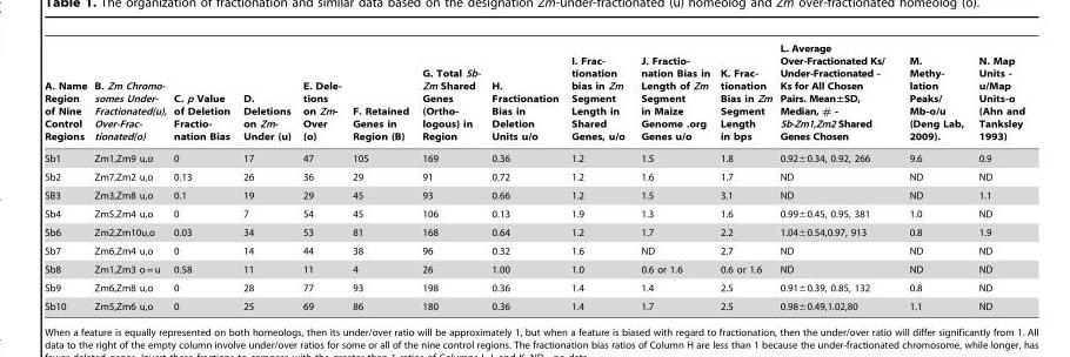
<table><thead><tr><td>A. Name Region of Nine Control Regions</td><td>B. Zm Chromo- somes Under- Fractionated(u), Over-Frac- tionated(o)</td><td>C. p Value of Deletion Fractio- nation Bias</td><td>D. Deletions on Zm- Under (u)</td><td>E. Dele- tions on Zm- Over (o)</td><td>F. Retained Genes in Region (B)</td><td>G. Total Sb- Zm Shared Genes (Ortho- logous) in Region</td><td>H. Fractionation Bias in Deletion Units u/o</td><td>I. Frac- tionation bias in Zm Segment Length in Shared Genes, u/o</td><td>J. Fractio- nation Bias in Length of Zm Segment in Maize Genome .org Genes u/o</td><td>K. Frac- tionation Bias in Zm Segment Length in bps</td><td>L. Average Over-Fractionated Ks/ Under-Fractionated - Ks for All Chosen Pairs. Mean±SD, Median, # - Sb-Zm1,Zm2 Shared Genes Chosen</td><td>M. Methy- lation Peaks/ Mb-o/u (Deng Lab, 2009).</td><td>N. Map Units - u/Map Units-o (Ahn and Tanksley 1993)</td></tr></thead><tbody><tr><td>Sb1</td><td>Zm1,Zm9 u,o</td><td>0</td><td>17</td><td>47</td><td>105</td><td>169</td><td>0.36</td><td>1.2</td><td>1.5</td><td>1.8</td><td>0.92±0.34, 0.92, 266</td><td>9.6</td><td>0.9</td></tr><tr><td>Sb2</td><td>Zm7,Zm2 u,o</td><td>0.13</td><td>26</td><td>36</td><td>29</td><td>91</td><td>0.72</td><td>1.2</td><td>1.6</td><td>1.7</td><td>ND</td><td>ND</td><td>ND</td></tr><tr><td>SB3</td><td>Zm3,Zm8 u,o</td><td>0.1</td><td>19</td><td>29</td><td>45</td><td>93</td><td>0.66</td><td>1.2</td><td>1.5</td><td>3.1</td><td>ND</td><td>ND</td><td>1.1</td></tr><tr><td>Sb4</td><td>Zm5,Zm4 u,o</td><td>0</td><td>7</td><td>54</td><td>45</td><td>106</td><td>0.13</td><td>1.9</td><td>1.3</td><td>1.6</td><td>0.99±0.45, 0.95, 381</td><td>1.0</td><td>ND</td></tr><tr><td>Sb6</td><td>Zm2,Zm10u,o</td><td>0.03</td><td>34</td><td>53</td><td>81</td><td>168</td><td>0.64</td><td>1.2</td><td>1.7</td><td>2.2</td><td>1.04±0.54,0.97, 913</td><td>0.8</td><td>1.9</td></tr><tr><td>Sb7</td><td>Zm6,Zm4 u,o</td><td>0</td><td>14</td><td>44</td><td>38</td><td>96</td><td>0.32</td><td>1.6</td><td>ND</td><td>2.7</td><td>ND</td><td>ND</td><td>ND</td></tr><tr><td>Sb8</td><td>Zm1,Zm3 o = u</td><td>0.58</td><td>11</td><td>11</td><td>4</td><td>26</td><td>1.00</td><td>1.0</td><td>0.6 or 1.6</td><td>0.6 or 1.6</td><td>ND</td><td>ND</td><td>ND</td></tr><tr><td>Sb9</td><td>Zm6,Zm8 u,o</td><td>0</td><td>28</td><td>77</td><td>93</td><td>198</td><td>0.36</td><td>1.4</td><td>1.4</td><td>2.5</td><td>0.91±0.39, 0.85, 132</td><td>0.8</td><td>ND</td></tr><tr><td>Sb10</td><td>Zm5,Zm6 u,o</td><td>0</td><td>25</td><td>69</td><td>86</td><td>180</td><td>0.36</td><td>1.4</td><td>1.7</td><td>2.5</td><td>0.98±0.49,1.02,80</td><td>1.1</td><td>ND</td></tr></tbody></table>